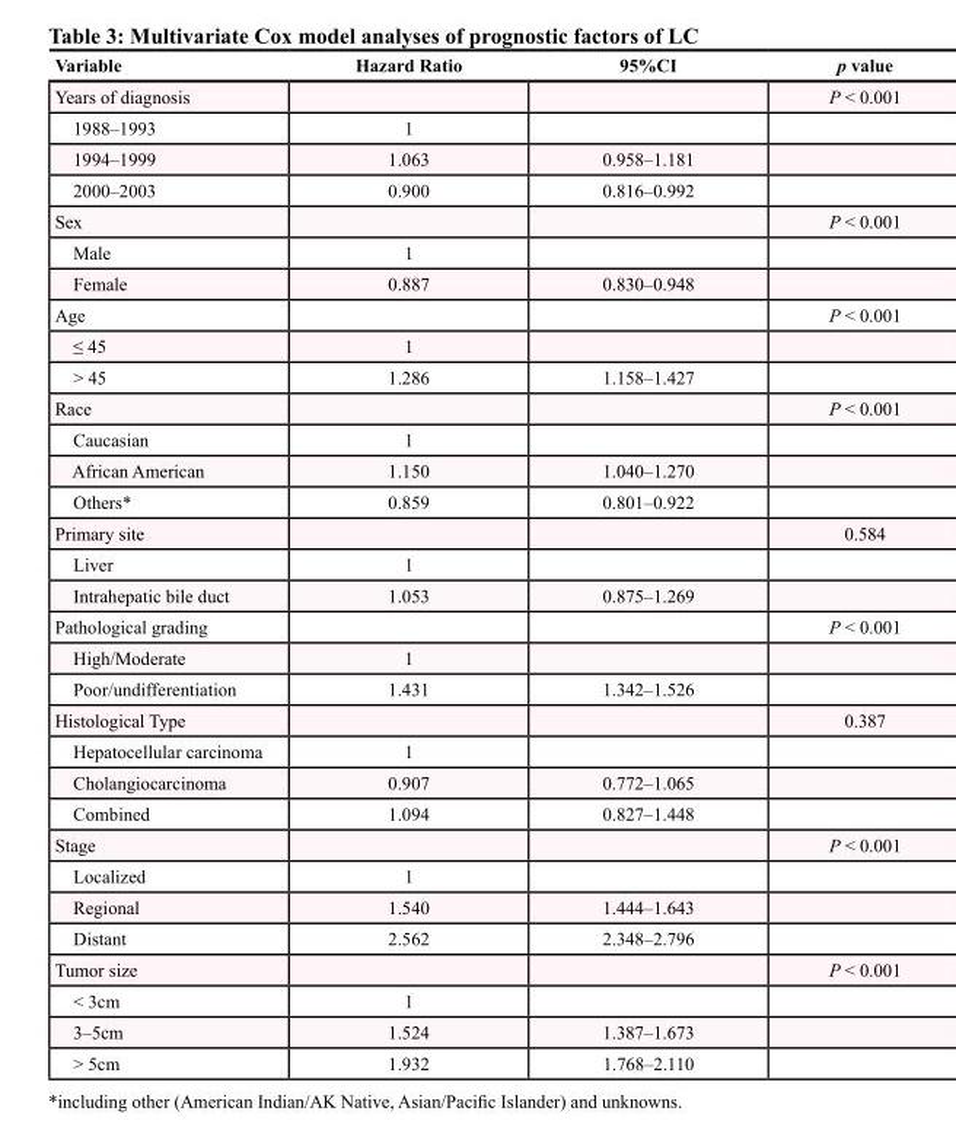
<table><thead><tr><td>Variable</td><td>Hazard Ratio</td><td>95%CI</td><td>p value</td></tr></thead><tbody><tr><td>Years of diagnosis</td><td></td><td></td><td>P &lt; 0.001</td></tr><tr><td>1988–1993</td><td>1</td><td></td><td></td></tr><tr><td>1994–1999</td><td>1.063</td><td>0.958–1.181</td><td></td></tr><tr><td>2000–2003</td><td>0.900</td><td>0.816–0.992</td><td></td></tr><tr><td>Sex</td><td></td><td></td><td>P &lt; 0.001</td></tr><tr><td>Male</td><td>1</td><td></td><td></td></tr><tr><td>Female</td><td>0.887</td><td>0.830–0.948</td><td></td></tr><tr><td>Age</td><td></td><td></td><td>P &lt; 0.001</td></tr><tr><td>≤ 45</td><td>1</td><td></td><td></td></tr><tr><td>&gt; 45</td><td>1.286</td><td>1.158–1.427</td><td></td></tr><tr><td>Race</td><td></td><td></td><td>P &lt; 0.001</td></tr><tr><td>Caucasian</td><td>1</td><td></td><td></td></tr><tr><td>African American</td><td>1.150</td><td>1.040–1.270</td><td></td></tr><tr><td>Others*</td><td>0.859</td><td>0.801–0.922</td><td></td></tr><tr><td>Primary site</td><td></td><td></td><td>0.584</td></tr><tr><td>Liver</td><td>1</td><td></td><td></td></tr><tr><td>Intrahepatic bile duct</td><td>1.053</td><td>0.875–1.269</td><td></td></tr><tr><td>Pathological grading</td><td></td><td></td><td>P &lt; 0.001</td></tr><tr><td>High/Moderate</td><td>1</td><td></td><td></td></tr><tr><td>Poor/undifferentiation</td><td>1.431</td><td>1.342–1.526</td><td></td></tr><tr><td>Histological Type</td><td></td><td></td><td>0.387</td></tr><tr><td>Hepatocellular carcinoma</td><td>1</td><td></td><td></td></tr><tr><td>Cholangiocarcinoma</td><td>0.907</td><td>0.772–1.065</td><td></td></tr><tr><td>Combined</td><td>1.094</td><td>0.827–1.448</td><td></td></tr><tr><td>Stage</td><td></td><td></td><td>P &lt; 0.001</td></tr><tr><td>Localized</td><td>1</td><td></td><td></td></tr><tr><td>Regional</td><td>1.540</td><td>1.444–1.643</td><td></td></tr><tr><td>Distant</td><td>2.562</td><td>2.348–2.796</td><td></td></tr><tr><td>Tumor size</td><td></td><td></td><td>P &lt; 0.001</td></tr><tr><td>&lt; 3cm</td><td>1</td><td></td><td></td></tr><tr><td>3–5cm</td><td>1.524</td><td>1.387–1.673</td><td></td></tr><tr><td>&gt; 5cm</td><td>1.932</td><td>1.768–2.110</td><td></td></tr></tbody></table>